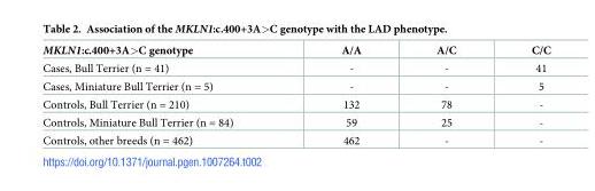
<table><thead><tr><td>MKLN1:c.400+3A&gt;C genotype</td><td>A/A</td><td>A/C</td><td>C/C</td></tr></thead><tbody><tr><td>Cases, Bull Terrier (n = 41)</td><td>-</td><td>-</td><td>41</td></tr><tr><td>Cases, Miniature Bull Terrier (n = 5)</td><td>-</td><td>-</td><td>5</td></tr><tr><td>Controls, Bull Terrier (n = 210)</td><td>132</td><td>78</td><td>-</td></tr><tr><td>Controls, Miniature Bull Terrier (n = 84)</td><td>59</td><td>25</td><td>-</td></tr><tr><td>Controls, other breeds (n = 462)</td><td>462</td><td>-</td><td>-</td></tr></tbody></table>